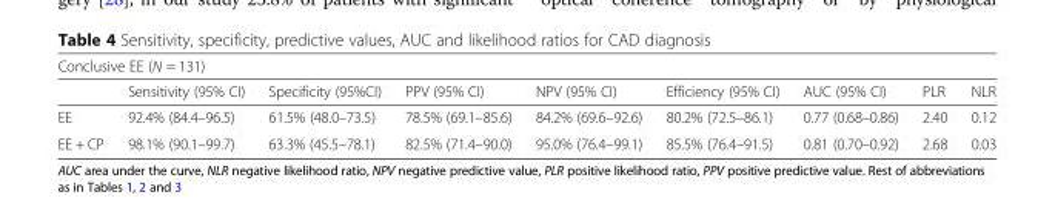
<table><thead><tr><td colspan="9">Conclusive EE (N = 131)</td></tr><tr><td></td><td>Sensitivity (95% CI)</td><td>Specificity (95%CI)</td><td>PPV (95% CI)</td><td>NPV (95% CI)</td><td>Efficiency (95% CI)</td><td>AUC (95% CI)</td><td>PLR</td><td>NLR</td></tr></thead><tbody><tr><td>EE</td><td>92.4% (84.4–96.5)</td><td>61.5% (48.0–73.5)</td><td>78.5% (69.1–85.6)</td><td>84.2% (69.6–92.6)</td><td>80.2% (72.5–86.1)</td><td>0.77 (0.68–0.86)</td><td>2.40</td><td>0.12</td></tr><tr><td>EE + CP</td><td>98.1% (90.1–99.7)</td><td>63.3% (45.5–78.1)</td><td>82.5% (71.4–90.0)</td><td>95.0% (76.4–99.1)</td><td>85.5% (76.4–91.5)</td><td>0.81 (0.70–0.92)</td><td>2.68</td><td>0.03</td></tr></tbody></table>